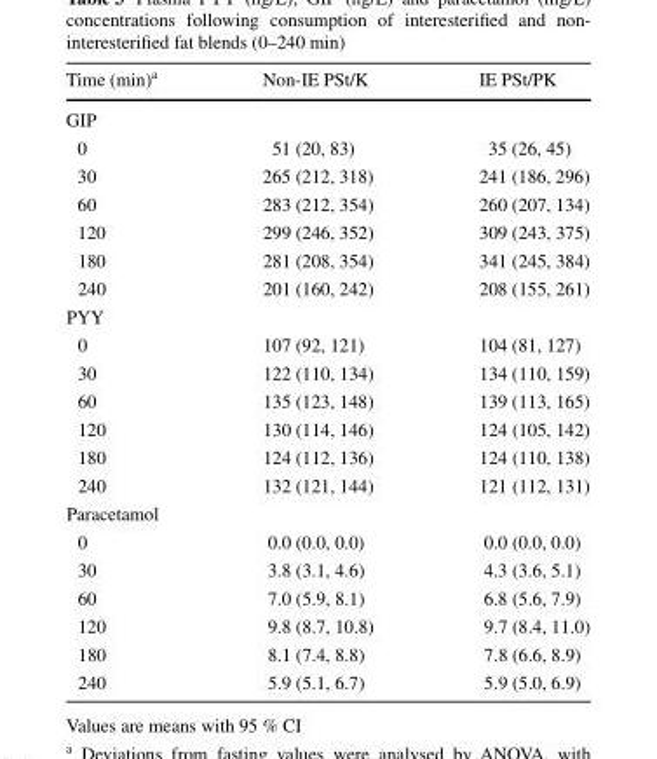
<table><thead><tr><td>Time (min)<sup>a</sup></td><td>Non-IE PSt/K</td><td>IE PSt/PK</td></tr></thead><tbody><tr><td colspan="3">GIP</td></tr><tr><td>0</td><td>51 (20, 83)</td><td>35 (26, 45)</td></tr><tr><td>30</td><td>265 (212, 318)</td><td>241 (186, 296)</td></tr><tr><td>60</td><td>283 (212, 354)</td><td>260 (207, 134)</td></tr><tr><td>120</td><td>299 (246, 352)</td><td>309 (243, 375)</td></tr><tr><td>180</td><td>281 (208, 354)</td><td>341 (245, 384)</td></tr><tr><td>240</td><td>201 (160, 242)</td><td>208 (155, 261)</td></tr><tr><td colspan="3">PYY</td></tr><tr><td>0</td><td>107 (92, 121)</td><td>104 (81, 127)</td></tr><tr><td>30</td><td>122 (110, 134)</td><td>134 (110, 159)</td></tr><tr><td>60</td><td>135 (123, 148)</td><td>139 (113, 165)</td></tr><tr><td>120</td><td>130 (114, 146)</td><td>124 (105, 142)</td></tr><tr><td>180</td><td>124 (112, 136)</td><td>124 (110, 138)</td></tr><tr><td>240</td><td>132 (121, 144)</td><td>121 (112, 131)</td></tr><tr><td colspan="3">Paracetamol</td></tr><tr><td>0</td><td>0.0 (0.0, 0.0)</td><td>0.0 (0.0, 0.0)</td></tr><tr><td>30</td><td>3.8 (3.1, 4.6)</td><td>4.3 (3.6, 5.1)</td></tr><tr><td>60</td><td>7.0 (5.9, 8.1)</td><td>6.8 (5.6, 7.9)</td></tr><tr><td>120</td><td>9.8 (8.7, 10.8)</td><td>9.7 (8.4, 11.0)</td></tr><tr><td>180</td><td>8.1 (7.4, 8.8)</td><td>7.8 (6.6, 8.9)</td></tr><tr><td>240</td><td>5.9 (5.1, 6.7)</td><td>5.9 (5.0, 6.9)</td></tr></tbody></table>